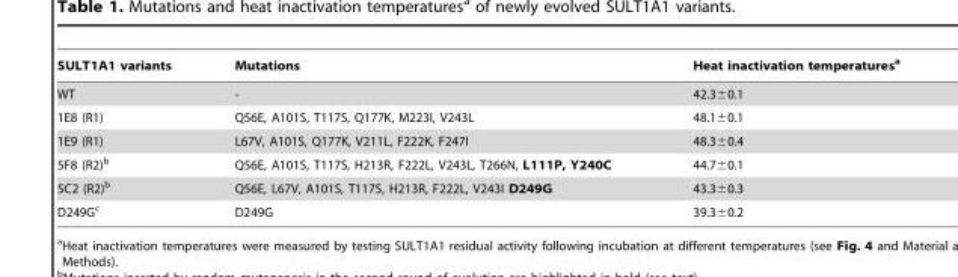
<table><thead><tr><td>SULT1A1 variants</td><td>Mutations</td><td>Heat inactivation temperatures<sup>a</sup></td></tr></thead><tbody><tr><td>WT</td><td>-</td><td>42.3±0.1</td></tr><tr><td>1E8 (R1)</td><td>Q56E, A101S, T117S, Q177K, M223I, V243L</td><td>48.1±0.1</td></tr><tr><td>1E9 (R1)</td><td>L67V, A101S, Q177K, V211L, F222K, F247I</td><td>48.3±0.4</td></tr><tr><td>5F8 (R2)<sup>b</sup></td><td>Q56E, A101S, T117S, H213R, F222L, V243L, T266N, L111P, Y240C</td><td>44.7±0.1</td></tr><tr><td>5C2 (R2)<sup>b</sup></td><td>Q56E, L67V, A101S, T117S, H213R, F222L, V243I D249G</td><td>43.3±0.3</td></tr><tr><td>D249G<sup>c</sup></td><td>D249G</td><td>39.3±0.2</td></tr></tbody></table>